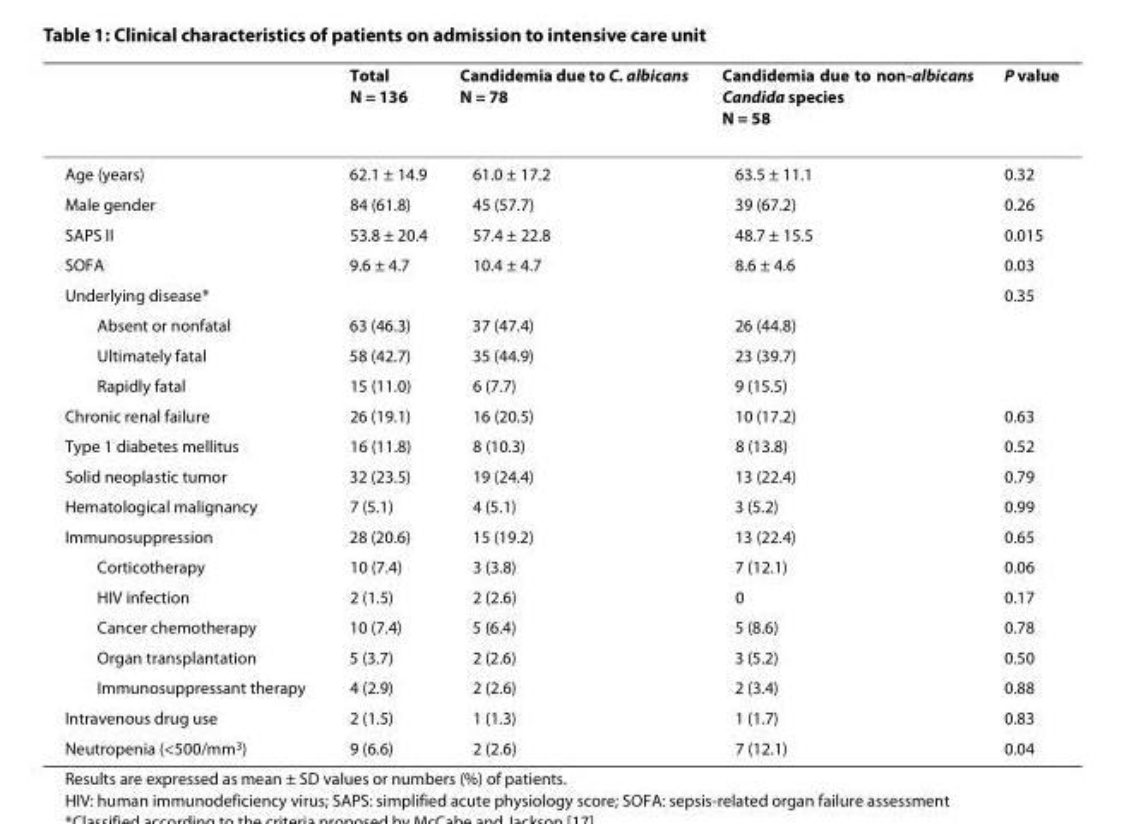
<table><thead><tr><td></td><td>Total N = 136</td><td>Candidemia due to C. albicans N = 78</td><td>Candidemia due to non-albicans Candida species N = 58</td><td>P value</td></tr></thead><tbody><tr><td>Age (years)</td><td>62.1 ± 14.9</td><td>61.0 ± 17.2</td><td>63.5 ± 11.1</td><td>0.32</td></tr><tr><td>Male gender</td><td>84 (61.8)</td><td>45 (57.7)</td><td>39 (67.2)</td><td>0.26</td></tr><tr><td>SAPS II</td><td>53.8 ± 20.4</td><td>57.4 ± 22.8</td><td>48.7 ± 15.5</td><td>0.015</td></tr><tr><td>SOFA</td><td>9.6 ± 4.7</td><td>10.4 ± 4.7</td><td>8.6 ± 4.6</td><td>0.03</td></tr><tr><td>Underlying disease*</td><td></td><td></td><td></td><td>0.35</td></tr><tr><td>Absent or nonfatal</td><td>63 (46.3)</td><td>37 (47.4)</td><td>26 (44.8)</td><td></td></tr><tr><td>Ultimately fatal</td><td>58 (42.7)</td><td>35 (44.9)</td><td>23 (39.7)</td><td></td></tr><tr><td>Rapidly fatal</td><td>15 (11.0)</td><td>6 (7.7)</td><td>9 (15.5)</td><td></td></tr><tr><td>Chronic renal failure</td><td>26 (19.1)</td><td>16 (20.5)</td><td>10 (17.2)</td><td>0.63</td></tr><tr><td>Type 1 diabetes mellitus</td><td>16 (11.8)</td><td>8 (10.3)</td><td>8 (13.8)</td><td>0.52</td></tr><tr><td>Solid neoplastic tumor</td><td>32 (23.5)</td><td>19 (24.4)</td><td>13 (22.4)</td><td>0.79</td></tr><tr><td>Hematological malignancy</td><td>7 (5.1)</td><td>4 (5.1)</td><td>3 (5.2)</td><td>0.99</td></tr><tr><td>Immunosuppression</td><td>28 (20.6)</td><td>15 (19.2)</td><td>13 (22.4)</td><td>0.65</td></tr><tr><td>Corticotherapy</td><td>10 (7.4)</td><td>3 (3.8)</td><td>7 (12.1)</td><td>0.06</td></tr><tr><td>HIV infection</td><td>2 (1.5)</td><td>2 (2.6)</td><td>0</td><td>0.17</td></tr><tr><td>Cancer chemotherapy</td><td>10 (7.4)</td><td>5 (6.4)</td><td>5 (8.6)</td><td>0.78</td></tr><tr><td>Organ transplantation</td><td>5 (3.7)</td><td>2 (2.6)</td><td>3 (5.2)</td><td>0.50</td></tr><tr><td>Immunosuppressant therapy</td><td>4 (2.9)</td><td>2 (2.6)</td><td>2 (3.4)</td><td>0.88</td></tr><tr><td>Intravenous drug use</td><td>2 (1.5)</td><td>1 (1.3)</td><td>1 (1.7)</td><td>0.83</td></tr><tr><td>Neutropenia (&lt;500/mm<sup>3</sup>)</td><td>9 (6.6)</td><td>2 (2.6)</td><td>7 (12.1)</td><td>0.04</td></tr></tbody></table>